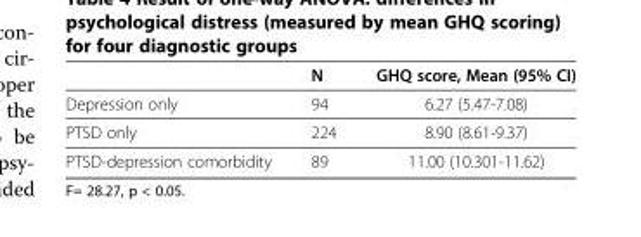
<table><thead><tr><td></td><td>N</td><td>GHQ score, Mean (95% CI)</td></tr></thead><tbody><tr><td>Depression only</td><td>94</td><td>6.27 (5.47-7.08)</td></tr><tr><td>PTSD only</td><td>224</td><td>8.90 (8.61-9.37)</td></tr><tr><td>PTSD-depression comorbidity</td><td>89</td><td>11.00 (10.301-11.62)</td></tr></tbody></table>